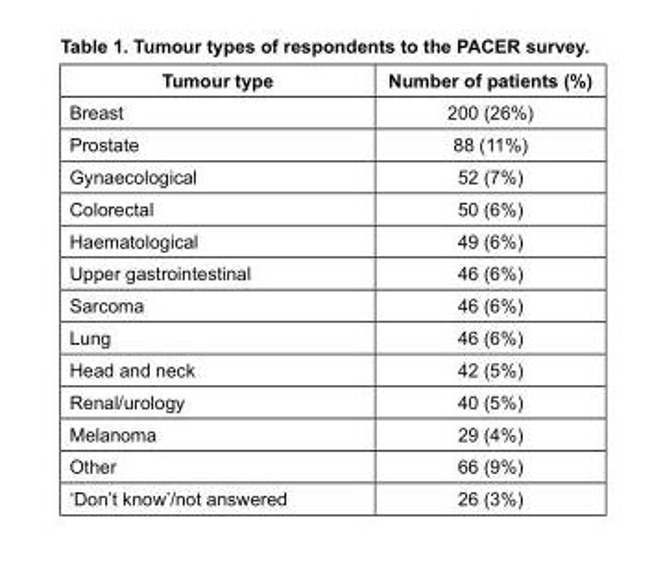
<table><thead><tr><td>Tumour type</td><td>Number of patients (%)</td></tr></thead><tbody><tr><td>Breast</td><td>200 (26%)</td></tr><tr><td>Prostate</td><td>88 (11%)</td></tr><tr><td>Gynaecological</td><td>52 (7%)</td></tr><tr><td>Colorectal</td><td>50 (6%)</td></tr><tr><td>Haematological</td><td>49 (6%)</td></tr><tr><td>Upper gastrointestinal</td><td>46 (6%)</td></tr><tr><td>Sarcoma</td><td>46 (6%)</td></tr><tr><td>Lung</td><td>46 (6%)</td></tr><tr><td>Head and neck</td><td>42 (5%)</td></tr><tr><td>Renal/urology</td><td>40 (5%)</td></tr><tr><td>Melanoma</td><td>29 (4%)</td></tr><tr><td>Other</td><td>66 (9%)</td></tr><tr><td>‘Don’t know’/not answered</td><td>26 (3%)</td></tr></tbody></table>